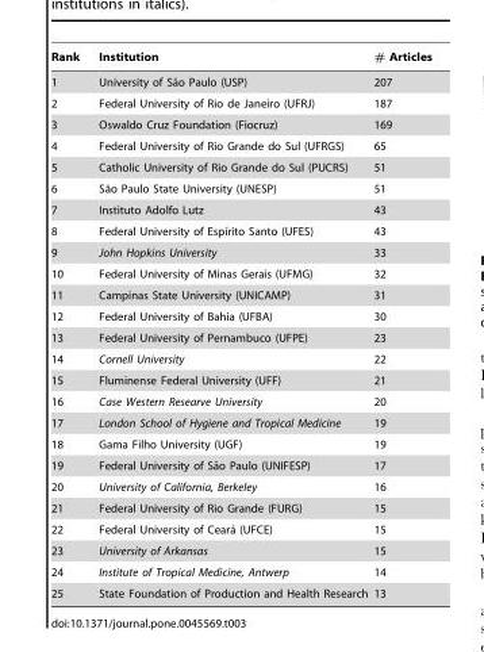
<table><thead><tr><td>Rank</td><td>Institution</td><td># Articles</td></tr></thead><tbody><tr><td>1</td><td>University of Sa˜o Paulo (USP)</td><td>207</td></tr><tr><td>2</td><td>Federal University of Rio de Janeiro (UFRJ)</td><td>187</td></tr><tr><td>3</td><td>Oswaldo Cruz Foundation (Fiocruz)</td><td>169</td></tr><tr><td>4</td><td>Federal University of Rio Grande do Sul (UFRGS)</td><td>65</td></tr><tr><td>5</td><td>Catholic University of Rio Grande do Sul (PUCRS)</td><td>51</td></tr><tr><td>6</td><td>Sa˜o Paulo State University (UNESP)</td><td>51</td></tr><tr><td>7</td><td>Instituto Adolfo Lutz</td><td>43</td></tr><tr><td>8</td><td>Federal University of Espı´rito Santo (UFES)</td><td>43</td></tr><tr><td>9</td><td>John Hopkins University</td><td>33</td></tr><tr><td>10</td><td>Federal University of Minas Gerais (UFMG)</td><td>32</td></tr><tr><td>11</td><td>Campinas State University (UNICAMP)</td><td>31</td></tr><tr><td>12</td><td>Federal University of Bahia (UFBA)</td><td>30</td></tr><tr><td>13</td><td>Federal University of Pernambuco (UFPE)</td><td>23</td></tr><tr><td>14</td><td>Cornell University</td><td>22</td></tr><tr><td>15</td><td>Fluminense Federal University (UFF)</td><td>21</td></tr><tr><td>16</td><td>Case Western Researve University</td><td>20</td></tr><tr><td>17</td><td>London School of Hygiene and Tropical Medicine</td><td>19</td></tr><tr><td>18</td><td>Gama Filho University (UGF)</td><td>19</td></tr><tr><td>19</td><td>Federal University of Sa˜o Paulo (UNIFESP)</td><td>17</td></tr><tr><td>20</td><td>University of California, Berkeley</td><td>16</td></tr><tr><td>21</td><td>Federal University of Rio Grande (FURG)</td><td>15</td></tr><tr><td>22</td><td>Federal University of Ceara´ (UFCE)</td><td>15</td></tr><tr><td>23</td><td>University of Arkansas</td><td>15</td></tr><tr><td>24</td><td>Institute of Tropical Medicine, Antwerp</td><td>14</td></tr><tr><td>25</td><td>State Foundation of Production and Health Research</td><td>13</td></tr></tbody></table>